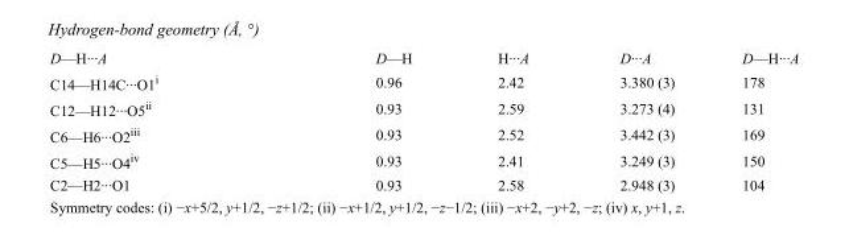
<table><tbody><tr><td>D—H···A</td><td>D—H</td><td>H···A</td><td>D···A</td><td>D—H···A</td></tr><tr><td>C14—H14C···O1<sup>i</sup></td><td>0.96</td><td>2.42</td><td>3.380 (3)</td><td>178</td></tr><tr><td>C12—H12···O5<sup>ii</sup></td><td>0.93</td><td>2.59</td><td>3.273 (4)</td><td>131</td></tr><tr><td>C6—H6···O2<sup>iii</sup></td><td>0.93</td><td>2.52</td><td>3.442 (3)</td><td>169</td></tr><tr><td>C5—H5···O4<sup>iv</sup></td><td>0.93</td><td>2.41</td><td>3.249 (3)</td><td>150</td></tr><tr><td>C2—H2···O1</td><td>0.93</td><td>2.58</td><td>2.948 (3)</td><td>104</td></tr></tbody></table>